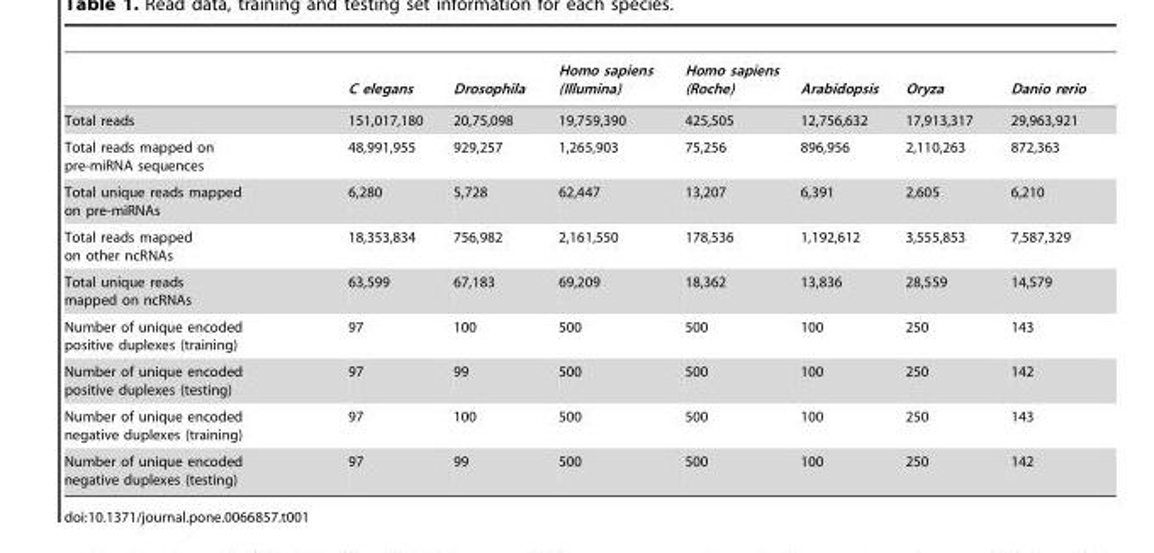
<table><thead><tr><td></td><td>C elegans</td><td>Drosophila</td><td>Homo sapiens (Illumina)</td><td>Homo sapiens (Roche)</td><td>Arabidopsis</td><td>Oryza</td><td>Danio rerio</td></tr></thead><tbody><tr><td>Total reads</td><td>151,017,180</td><td>20,75,098</td><td>19,759,390</td><td>425,505</td><td>12,756,632</td><td>17,913,317</td><td>29,963,921</td></tr><tr><td>Total reads mapped on pre-miRNA sequences</td><td>48,991,955</td><td>929,257</td><td>1,265,903</td><td>75,256</td><td>896,956</td><td>2,110,263</td><td>872,363</td></tr><tr><td>Total unique reads mapped on pre-miRNAs</td><td>6,280</td><td>5,728</td><td>62,447</td><td>13,207</td><td>6,391</td><td>2,605</td><td>6,210</td></tr><tr><td>Total reads mapped on other ncRNAs</td><td>18,353,834</td><td>756,982</td><td>2,161,550</td><td>178,536</td><td>1,192,612</td><td>3,555,853</td><td>7,587,329</td></tr><tr><td>Total unique reads mapped on ncRNAs</td><td>63,599</td><td>67,183</td><td>69,209</td><td>18,362</td><td>13,836</td><td>28,559</td><td>14,579</td></tr><tr><td>Number of unique encoded positive duplexes (training)</td><td>97</td><td>100</td><td>500</td><td>500</td><td>100</td><td>250</td><td>143</td></tr><tr><td>Number of unique encoded positive duplexes (testing)</td><td>97</td><td>99</td><td>500</td><td>500</td><td>100</td><td>250</td><td>142</td></tr><tr><td>Number of unique encoded negative duplexes (training)</td><td>97</td><td>100</td><td>500</td><td>500</td><td>100</td><td>250</td><td>143</td></tr><tr><td>Number of unique encoded negative duplexes (testing)</td><td>97</td><td>99</td><td>500</td><td>500</td><td>100</td><td>250</td><td>142</td></tr></tbody></table>